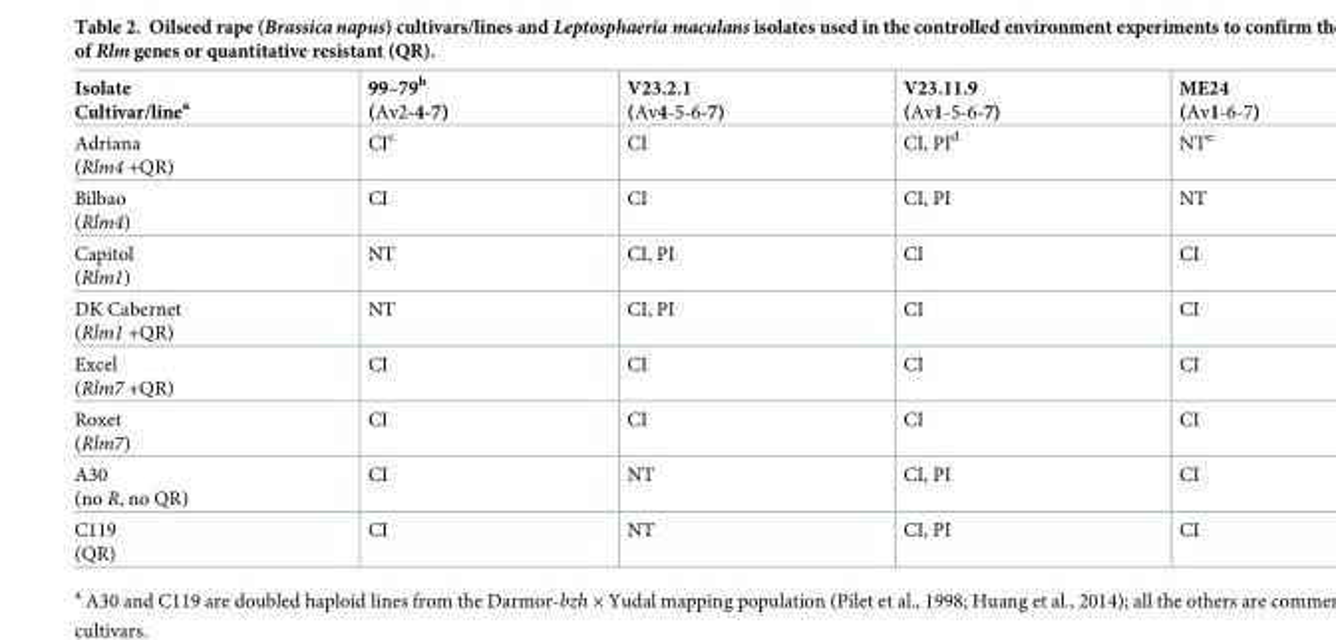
<table><tbody><tr><td>Isolate Cultivar/line<sup>a</sup></td><td>99–79<sup>b</sup> (Av2-4-7)</td><td>V23.2.1 (Av4-5-6-7)</td><td>V23.11.9 (Av1-5-6-7)</td><td>ME24 (Av1-6-7)</td></tr><tr><td>Adriana (Rlm4 +QR)</td><td>CI<sup>c</sup></td><td>CI</td><td>CI, PI<sup>d</sup></td><td>NT<sup>e</sup></td></tr><tr><td>Bilbao (Rlm4)</td><td>CI</td><td>CI</td><td>CI, PI</td><td>NT</td></tr><tr><td>Capitol (Rlm1)</td><td>NT</td><td>CI, PI</td><td>CI</td><td>CI</td></tr><tr><td>DK Cabernet (Rlm1 +QR)</td><td>NT</td><td>CI, PI</td><td>CI</td><td>CI</td></tr><tr><td>Excel (Rlm7 +QR)</td><td>CI</td><td>CI</td><td>CI</td><td>CI</td></tr><tr><td>Roxet (Rlm7)</td><td>CI</td><td>CI</td><td>CI</td><td>CI</td></tr><tr><td>A30 (no R, no QR)</td><td>CI</td><td>NT</td><td>CI, PI</td><td>CI</td></tr><tr><td>C119 (QR)</td><td>CI</td><td>NT</td><td>CI, PI</td><td>CI</td></tr></tbody></table>